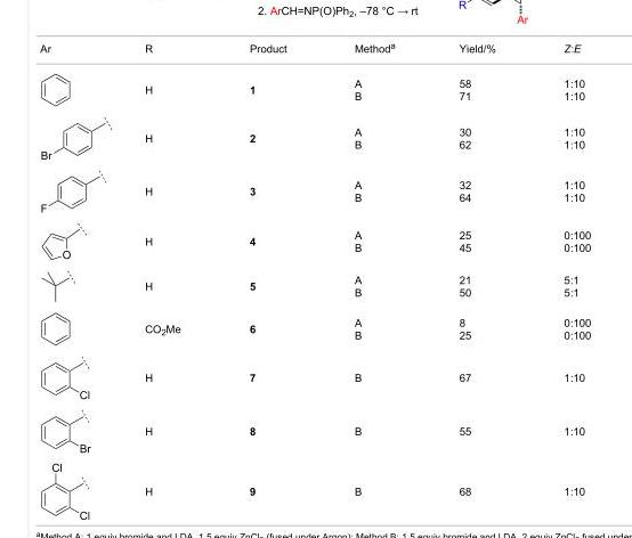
<table><tbody><tr><td rowspan="10">Ar</td><td>R</td><td>Product</td><td>Method<sup>a</sup></td><td>Yield/%</td><td>Z:E</td></tr><tr><td>H</td><td>1</td><td>A B</td><td>58 71</td><td>1:10 1:10</td></tr><tr><td>H</td><td>2</td><td>A B</td><td>30 62</td><td>1:10 1:10</td></tr><tr><td>H</td><td>3</td><td>A B</td><td>32 64</td><td>1:10 1:10</td></tr><tr><td>H</td><td>4</td><td>A B</td><td>25 45</td><td>0:100 0:100</td></tr><tr><td>H</td><td>5</td><td>A B</td><td>21 50</td><td>5:1 5:1</td></tr><tr><td>CO<sub>2</sub>Me</td><td>6</td><td>A B</td><td>8 25</td><td>0:100 0:100</td></tr><tr><td>H</td><td>7</td><td>B</td><td>67</td><td>1:10</td></tr><tr><td>H</td><td>8</td><td>B</td><td>55</td><td>1:10</td></tr><tr><td>H</td><td>9</td><td>B</td><td>68</td><td>1:10</td></tr></tbody></table>